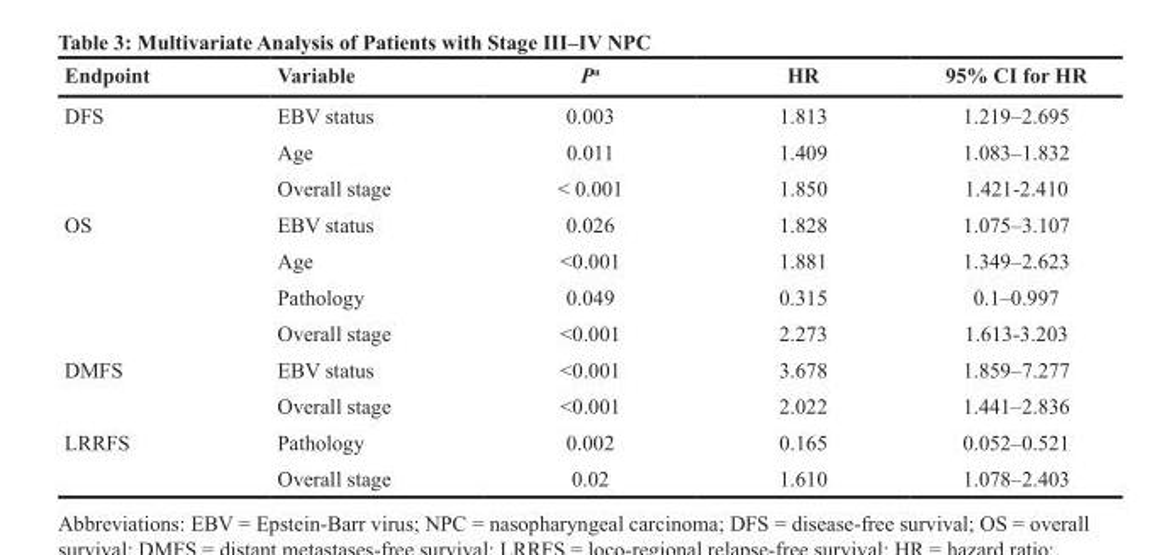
<table><thead><tr><td>Endpoint</td><td>Variable</td><td>P<sup>a</sup></td><td>HR</td><td>95% CI for HR</td></tr></thead><tbody><tr><td rowspan="3">DFS</td><td>EBV status</td><td>0.003</td><td>1.813</td><td>1.219–2.695</td></tr><tr><td>Age</td><td>0.011</td><td>1.409</td><td>1.083–1.832</td></tr><tr><td>Overall stage</td><td>&lt; 0.001</td><td>1.850</td><td>1.421-2.410</td></tr><tr><td rowspan="4">OS</td><td>EBV status</td><td>0.026</td><td>1.828</td><td>1.075–3.107</td></tr><tr><td>Age</td><td>&lt;0.001</td><td>1.881</td><td>1.349–2.623</td></tr><tr><td>Pathology</td><td>0.049</td><td>0.315</td><td>0.1–0.997</td></tr><tr><td>Overall stage</td><td>&lt;0.001</td><td>2.273</td><td>1.613-3.203</td></tr><tr><td rowspan="2">DMFS</td><td>EBV status</td><td>&lt;0.001</td><td>3.678</td><td>1.859–7.277</td></tr><tr><td>Overall stage</td><td>&lt;0.001</td><td>2.022</td><td>1.441–2.836</td></tr><tr><td rowspan="2">LRRFS</td><td>Pathology</td><td>0.002</td><td>0.165</td><td>0.052–0.521</td></tr><tr><td>Overall stage</td><td>0.02</td><td>1.610</td><td>1.078–2.403</td></tr></tbody></table>